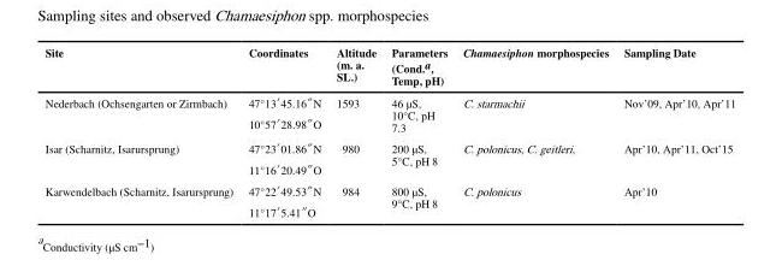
<table><thead><tr><td>Site</td><td>Coordinates</td><td>Altitude (m. a. SL.)</td><td>Parameters (Cond.<sup>a</sup>, Temp, pH)</td><td>Chamaesiphon morphospecies</td><td>Sampling Date</td></tr></thead><tbody><tr><td rowspan="2">Nederbach (Ochsengarten or Zirmbach)</td><td>47°13′45.16″N</td><td rowspan="2">1593</td><td rowspan="2">46 µS, 10°C, pH 7.3</td><td rowspan="2">C. starmachii</td><td rowspan="2">Nov’09, Apr’10, Apr’11</td></tr><tr><td>10°57′28.98″O</td></tr><tr><td rowspan="2">Isar (Scharnitz, Isarursprung)</td><td>47°23′01.86″N</td><td rowspan="2">980</td><td rowspan="2">200 µS, 5°C, pH 8</td><td rowspan="2">C. polonicus, C. geitleri,</td><td rowspan="2">Apr’10, Apr’11, Oct’15</td></tr><tr><td>11°16′20.49″O</td></tr><tr><td rowspan="2">Karwendelbach (Scharnitz, Isarursprung)</td><td>47°22′49.53″N</td><td rowspan="2">984</td><td rowspan="2">800 µS, 9°C, pH 8</td><td rowspan="2">C. polonicus</td><td rowspan="2">Apr’10</td></tr><tr><td>11°17′5.41″O</td></tr></tbody></table>